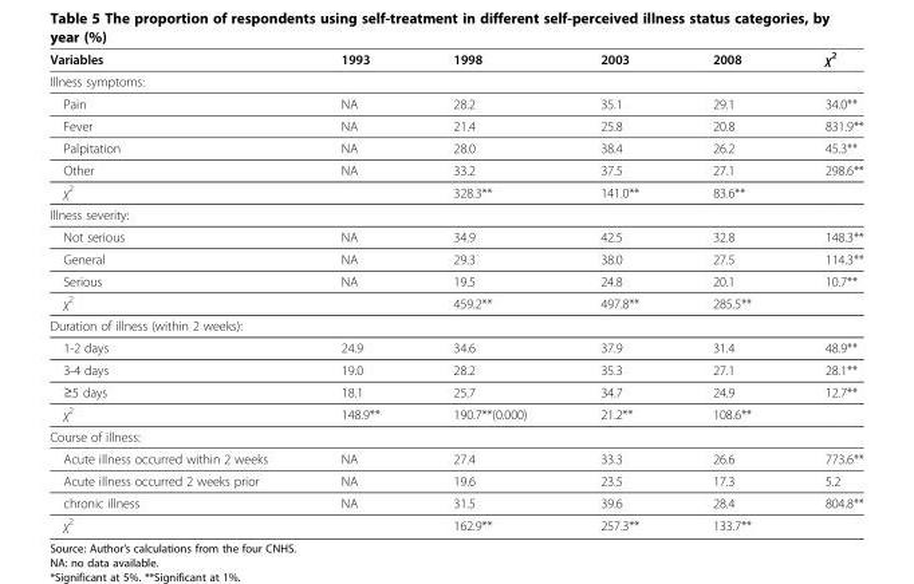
<table><thead><tr><td>Variables</td><td>1993</td><td>1998</td><td>2003</td><td>2008</td><td>χ<sup>2</sup></td></tr></thead><tbody><tr><td colspan="6">Illness symptoms:</td></tr><tr><td>Pain</td><td>NA</td><td>28.2</td><td>35.1</td><td>29.1</td><td>34.0**</td></tr><tr><td>Fever</td><td>NA</td><td>21.4</td><td>25.8</td><td>20.8</td><td>831.9**</td></tr><tr><td>Palpitation</td><td>NA</td><td>28.0</td><td>38.4</td><td>26.2</td><td>45.3**</td></tr><tr><td>Other</td><td>NA</td><td>33.2</td><td>37.5</td><td>27.1</td><td>298.6**</td></tr><tr><td>χ<sup>2</sup></td><td></td><td>328.3**</td><td>141.0**</td><td>83.6**</td><td></td></tr><tr><td colspan="6">Illness severity:</td></tr><tr><td>Not serious</td><td>NA</td><td>34.9</td><td>42.5</td><td>32.8</td><td>148.3**</td></tr><tr><td>General</td><td>NA</td><td>29.3</td><td>38.0</td><td>27.5</td><td>114.3**</td></tr><tr><td>Serious</td><td>NA</td><td>19.5</td><td>24.8</td><td>20.1</td><td>10.7**</td></tr><tr><td>χ<sup>2</sup></td><td></td><td>459.2**</td><td>497.8**</td><td>285.5**</td><td></td></tr><tr><td colspan="6">Duration of illness (within 2 weeks):</td></tr><tr><td>1-2 days</td><td>24.9</td><td>34.6</td><td>37.9</td><td>31.4</td><td>48.9**</td></tr><tr><td>3-4 days</td><td>19.0</td><td>28.2</td><td>35.3</td><td>27.1</td><td>28.1**</td></tr><tr><td>≥5 days</td><td>18.1</td><td>25.7</td><td>34.7</td><td>24.9</td><td>12.7**</td></tr><tr><td>χ<sup>2</sup></td><td>148.9**</td><td>190.7**(0.000)</td><td>21.2**</td><td>108.6**</td><td></td></tr><tr><td colspan="6">Course of illness:</td></tr><tr><td>Acute illness occurred within 2 weeks</td><td>NA</td><td>27.4</td><td>33.3</td><td>26.6</td><td>773.6**</td></tr><tr><td>Acute illness occurred 2 weeks prior</td><td>NA</td><td>19.6</td><td>23.5</td><td>17.3</td><td>5.2</td></tr><tr><td>chronic illness</td><td>NA</td><td>31.5</td><td>39.6</td><td>28.4</td><td>804.8**</td></tr><tr><td>χ<sup>2</sup></td><td></td><td>162.9**</td><td>257.3**</td><td>133.7**</td><td></td></tr></tbody></table>